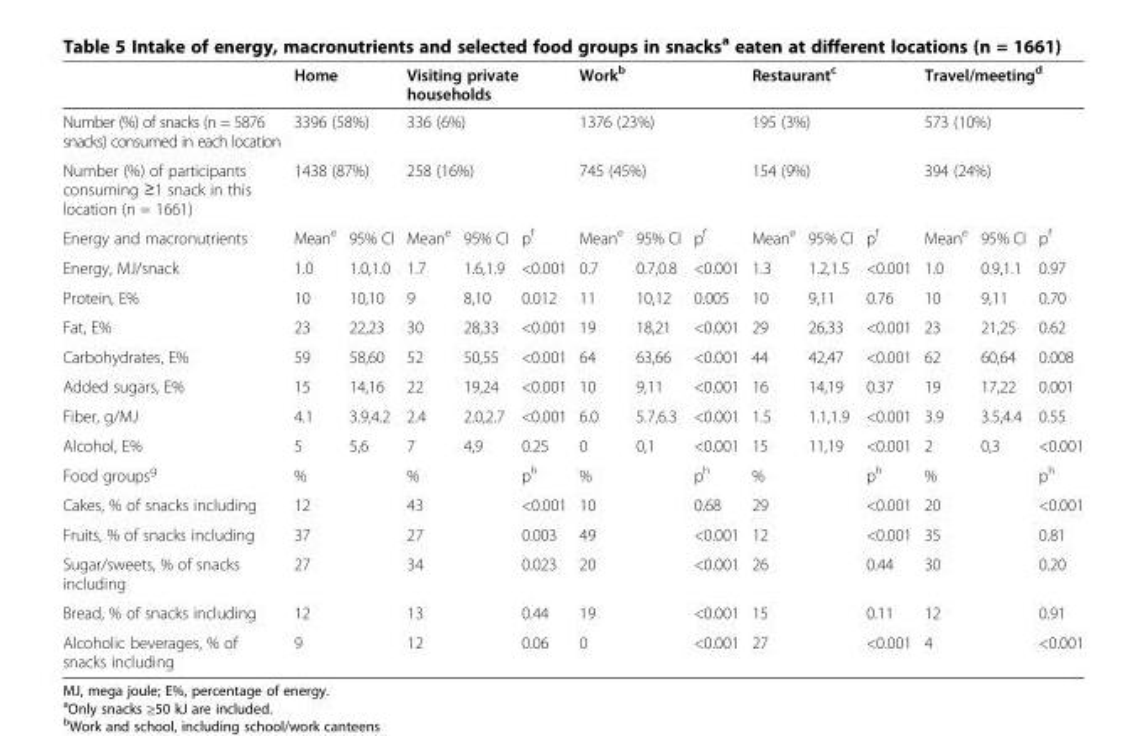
<table><thead><tr><td rowspan="4">Number (%) of snacks (n = 5876 snacks) consumed in each location Number (%) of participants consuming ≥1 snack in this location (n = 1661) Energy and macronutrients</td><td rowspan="3" colspan="2">Home 3396 (58%) 1438 (87%)</td><td rowspan="3" colspan="3">Visiting private households 336 (6%) 258 (16%)</td><td rowspan="3" colspan="3">Work<sup>b</sup> 1376 (23%) 745 (45%)</td><td rowspan="3" colspan="3">Restaurant<sup>c</sup> 195 (3%) 154 (9%)</td><td rowspan="3" colspan="3">Travel/meeting<sup>d</sup> 573 (10%) 394 (24%)</td></tr><tr></tr><tr></tr><tr><td>Mean<sup>e</sup></td><td>95% CI</td><td>Mean<sup>e</sup></td><td>95% CI</td><td>p<sup>f</sup></td><td>Mean<sup>e</sup></td><td>95% CI</td><td>p<sup>f</sup></td><td>Mean<sup>e</sup></td><td>95% CI</td><td>p<sup>f</sup></td><td>Mean<sup>e</sup></td><td>95% CI</td><td>p<sup>f</sup></td></tr></thead><tbody><tr><td>Energy, MJ/snack</td><td>1.0</td><td>1.0,1.0</td><td>1.7</td><td>1.6,1.9</td><td>&lt;0.001</td><td>0.7</td><td>0.7,0.8</td><td>&lt;0.001</td><td>1.3</td><td>1.2,1.5</td><td>&lt;0.001</td><td>1.0</td><td>0.9,1.1</td><td>0.97</td></tr><tr><td>Protein, E%</td><td>10</td><td>10,10</td><td>9</td><td>8,10</td><td>0.012</td><td>11</td><td>10,12</td><td>0.005</td><td>10</td><td>9,11</td><td>0.76</td><td>10</td><td>9,11</td><td>0.70</td></tr><tr><td>Fat, E%</td><td>23</td><td>22,23</td><td>30</td><td>28,33</td><td>&lt;0.001</td><td>19</td><td>18,21</td><td>&lt;0.001</td><td>29</td><td>26,33</td><td>&lt;0.001</td><td>23</td><td>21,25</td><td>0.62</td></tr><tr><td>Carbohydrates, E%</td><td>59</td><td>58,60</td><td>52</td><td>50,55</td><td>&lt;0.001</td><td>64</td><td>63,66</td><td>&lt;0.001</td><td>44</td><td>42,47</td><td>&lt;0.001</td><td>62</td><td>60,64</td><td>0.008</td></tr><tr><td>Added sugars, E%</td><td>15</td><td>14,16</td><td>22</td><td>19,24</td><td>&lt;0.001</td><td>10</td><td>9,11</td><td>&lt;0.001</td><td>16</td><td>14,19</td><td>0.37</td><td>19</td><td>17,22</td><td>0.001</td></tr><tr><td>Fiber, g/MJ</td><td>4.1</td><td>3.9,4.2</td><td>2.4</td><td>2.0,2.7</td><td>&lt;0.001</td><td>6.0</td><td>5.7,6.3</td><td>&lt;0.001</td><td>1.5</td><td>1.1,1.9</td><td>&lt;0.001</td><td>3.9</td><td>3.5,4.4</td><td>0.55</td></tr><tr><td>Alcohol, E%</td><td>5</td><td>5,6</td><td>7</td><td>4,9</td><td>0.25</td><td>0</td><td>0,1</td><td>&lt;0.001</td><td>15</td><td>11,19</td><td>&lt;0.001</td><td>2</td><td>0,3</td><td>&lt;0.001</td></tr><tr><td>Food groups<sup>g</sup></td><td colspan="2">%</td><td colspan="2">%</td><td>p<sup>h</sup></td><td colspan="2">%</td><td>p<sup>h</sup></td><td colspan="2">%</td><td>p<sup>h</sup></td><td colspan="2">%</td><td>p<sup>h</sup></td></tr><tr><td>Cakes, % of snacks including</td><td colspan="2">12</td><td colspan="2">43</td><td>&lt;0.001</td><td colspan="2">10</td><td>0.68</td><td colspan="2">29</td><td>&lt;0.001</td><td colspan="2">20</td><td>&lt;0.001</td></tr><tr><td>Fruits, % of snacks including</td><td colspan="2">37</td><td colspan="2">27</td><td>0.003</td><td colspan="2">49</td><td>&lt;0.001</td><td colspan="2">12</td><td>&lt;0.001</td><td colspan="2">35</td><td>0.81</td></tr><tr><td>Sugar/sweets, % of snacks including</td><td colspan="2">27</td><td colspan="2">34</td><td>0.023</td><td colspan="2">20</td><td>&lt;0.001</td><td colspan="2">26</td><td>0.44</td><td colspan="2">30</td><td>0.20</td></tr><tr><td>Bread, % of snacks including</td><td colspan="2">12</td><td colspan="2">13</td><td>0.44</td><td colspan="2">19</td><td>&lt;0.001</td><td colspan="2">15</td><td>0.11</td><td colspan="2">12</td><td>0.91</td></tr><tr><td>Alcoholic beverages, % of snacks including</td><td colspan="2">9</td><td colspan="2">12</td><td>0.06</td><td colspan="2">0</td><td>&lt;0.001</td><td colspan="2">27</td><td>&lt;0.001</td><td colspan="2">4</td><td>&lt;0.001</td></tr></tbody></table>